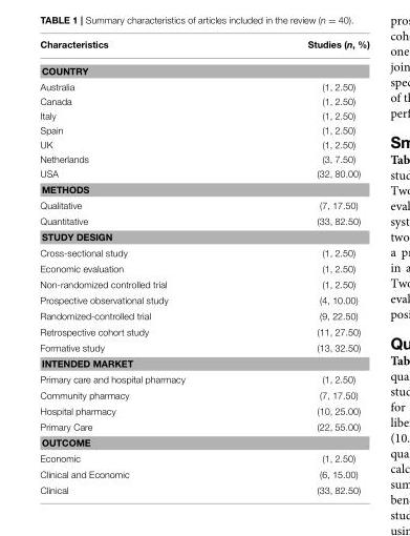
<table><thead><tr><td>Characteristics</td><td>Studies (n, %)</td></tr></thead><tbody><tr><td colspan="2">COUNTRY</td></tr><tr><td>Australia</td><td>(1, 2.50)</td></tr><tr><td>Canada</td><td>(1, 2.50)</td></tr><tr><td>Italy</td><td>(1, 2.50)</td></tr><tr><td>Spain</td><td>(1, 2.50)</td></tr><tr><td>UK</td><td>(1, 2.50)</td></tr><tr><td>Netherlands</td><td>(3, 7.50)</td></tr><tr><td>USA</td><td>(32, 80.00)</td></tr><tr><td colspan="2">METHODS</td></tr><tr><td>Qualitative</td><td>(7, 17.50)</td></tr><tr><td>Quantitative</td><td>(33, 82.50)</td></tr><tr><td colspan="2">STUDY DESIGN</td></tr><tr><td>Cross-sectional study</td><td>(1, 2.50)</td></tr><tr><td>Economic evaluation</td><td>(1, 2.50)</td></tr><tr><td>Non-randomized controlled trial</td><td>(1, 2.50)</td></tr><tr><td>Prospective observational study</td><td>(4, 10.00)</td></tr><tr><td>Randomized-controlled trial</td><td>(9, 22.50)</td></tr><tr><td>Retrospective cohort study</td><td>(11, 27.50)</td></tr><tr><td>Formative study</td><td>(13, 32.50)</td></tr><tr><td colspan="2">INTENDED MARKET</td></tr><tr><td>Primary care and hospital pharmacy</td><td>(1, 2.50)</td></tr><tr><td>Community pharmacy</td><td>(7, 17.50)</td></tr><tr><td>Hospital pharmacy</td><td>(10, 25.00)</td></tr><tr><td>Primary Care</td><td>(22, 55.00)</td></tr><tr><td colspan="2">OUTCOME</td></tr><tr><td>Economic</td><td>(1, 2.50)</td></tr><tr><td>Clinical and Economic</td><td>(6, 15.00)</td></tr><tr><td>Clinical</td><td>(33, 82.50)</td></tr></tbody></table>